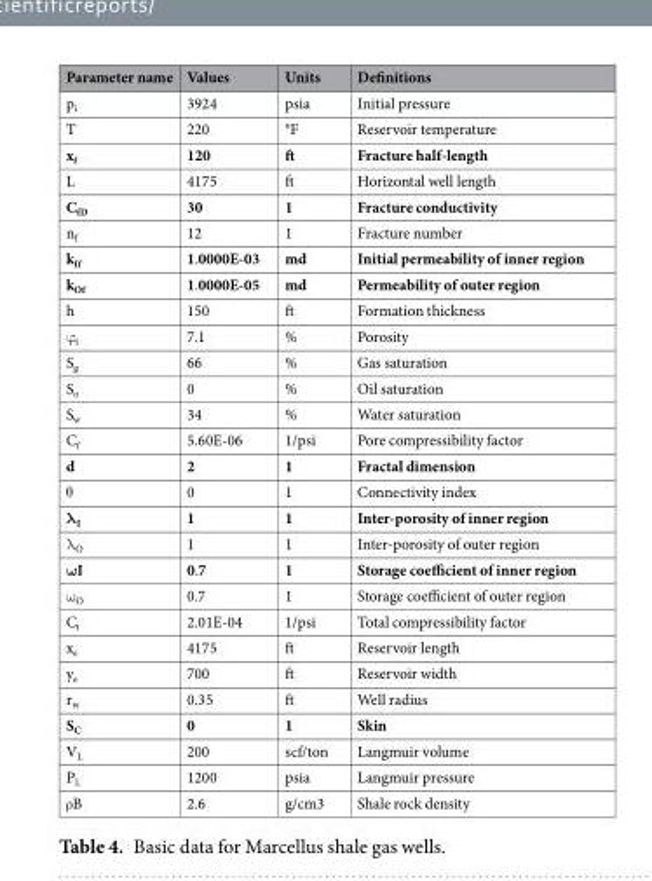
<table><thead><tr><td>Parameter name</td><td>Values</td><td>Units</td><td>Definitions</td></tr></thead><tbody><tr><td>p<sub>i</sub></td><td>3924</td><td>psia</td><td>Initial pressure</td></tr><tr><td>T</td><td>220</td><td>°F</td><td>Reservoir temperature</td></tr><tr><td>x<sub>f</sub></td><td>120</td><td>ft</td><td>Fracture half-length</td></tr><tr><td>L</td><td>4175</td><td>ft</td><td>Horizontal well length</td></tr><tr><td>C<sub>fD</sub></td><td>30</td><td>1</td><td>Fracture conductivity</td></tr><tr><td>n<sub>f</sub></td><td>12</td><td>1</td><td>Fracture number</td></tr><tr><td>k<sub>If</sub></td><td>1.0000E-03</td><td>md</td><td>Initial permeability of inner region</td></tr><tr><td>k<sub>Of</sub></td><td>1.0000E-05</td><td>md</td><td>Permeability of outer region</td></tr><tr><td>h</td><td>150</td><td>ft</td><td>Formation thickness</td></tr><tr><td>ϕ<sub>t</sub></td><td>7.1</td><td>%</td><td>Porosity</td></tr><tr><td>S<sub>g</sub></td><td>66</td><td>%</td><td>Gas saturation</td></tr><tr><td>S<sub>o</sub></td><td>0</td><td>%</td><td>Oil saturation</td></tr><tr><td>S<sub>w</sub></td><td>34</td><td>%</td><td>Water saturation</td></tr><tr><td>C<sub>f</sub></td><td>5.60E-06</td><td>1/psi</td><td>Pore compressibility factor</td></tr><tr><td>d</td><td>2</td><td>1</td><td>Fractal dimension</td></tr><tr><td>θ</td><td>0</td><td>1</td><td>Connectivity index</td></tr><tr><td>λ<sub>I</sub></td><td>1</td><td>1</td><td>Inter-porosity of inner region</td></tr><tr><td>λ<sub>O</sub></td><td>1</td><td>1</td><td>Inter-porosity of outer region</td></tr><tr><td>ωI</td><td>0.7</td><td>1</td><td>Storage coefficient of inner region</td></tr><tr><td>ω<sub>O</sub></td><td>0.7</td><td>1</td><td>Storage coefficient of outer region</td></tr><tr><td>C<sub>t</sub></td><td>2.01E-04</td><td>1/psi</td><td>Total compressibility factor</td></tr><tr><td>x<sub>e</sub></td><td>4175</td><td>ft</td><td>Reservoir length</td></tr><tr><td>y<sub>e</sub></td><td>700</td><td>ft</td><td>Reservoir width</td></tr><tr><td>r<sub>w</sub></td><td>0.35</td><td>ft</td><td>Well radius</td></tr><tr><td>S<sub>C</sub></td><td>0</td><td>1</td><td>Skin</td></tr><tr><td>V<sub>L</sub></td><td>200</td><td>scf/ton</td><td>Langmuir volume</td></tr><tr><td>P<sub>L</sub></td><td>1200</td><td>psia</td><td>Langmuir pressure</td></tr><tr><td>ρB</td><td>2.6</td><td>g/cm3</td><td>Shale rock density</td></tr></tbody></table>